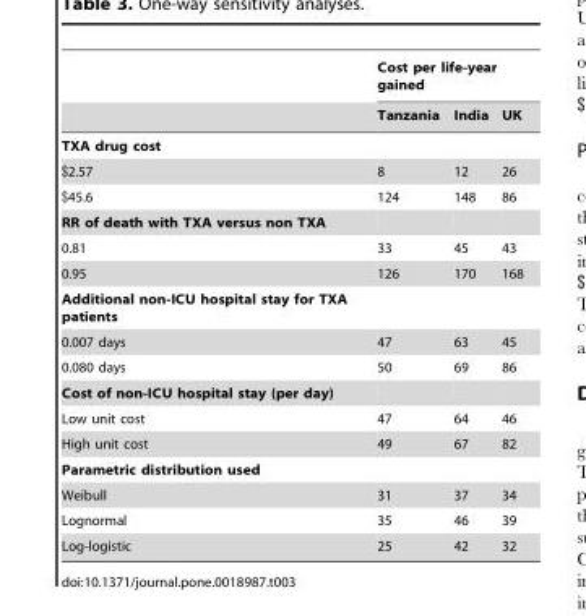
<table><thead><tr><td rowspan="2"></td><td colspan="3">Cost per life-year gained</td></tr><tr><td>Tanzania</td><td>India</td><td>UK</td></tr></thead><tbody><tr><td colspan="4">TXA drug cost</td></tr><tr><td>$2.57</td><td>8</td><td>12</td><td>26</td></tr><tr><td>$45.6</td><td>124</td><td>148</td><td>86</td></tr><tr><td colspan="4">RR of death with TXA versus non TXA</td></tr><tr><td>0.81</td><td>33</td><td>45</td><td>43</td></tr><tr><td>0.95</td><td>126</td><td>170</td><td>168</td></tr><tr><td colspan="4">Additional non-ICU hospital stay for TXA patients</td></tr><tr><td>0.007 days</td><td>47</td><td>63</td><td>45</td></tr><tr><td>0.080 days</td><td>50</td><td>69</td><td>86</td></tr><tr><td colspan="4">Cost of non-ICU hospital stay (per day)</td></tr><tr><td>Low unit cost</td><td>47</td><td>64</td><td>46</td></tr><tr><td>High unit cost</td><td>49</td><td>67</td><td>82</td></tr><tr><td colspan="4">Parametric distribution used</td></tr><tr><td>Weibull</td><td>31</td><td>37</td><td>34</td></tr><tr><td>Lognormal</td><td>35</td><td>46</td><td>39</td></tr><tr><td>Log-logistic</td><td>25</td><td>42</td><td>32</td></tr></tbody></table>